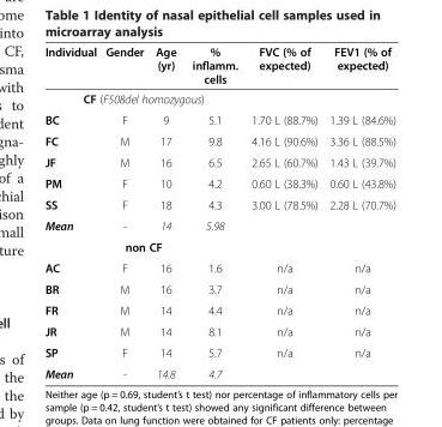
<table><thead><tr><td>Individual</td><td>Gender</td><td>Age (yr)</td><td>% inflamm. cells</td><td>FVC (% of expected)</td><td>FEV1 (% of expected)</td></tr></thead><tbody><tr><td colspan="6">CF (F508del homozygous)</td></tr><tr><td>BC</td><td>F</td><td>9</td><td>5.1</td><td>1.70 L (88.7%)</td><td>1.39 L (84.6%)</td></tr><tr><td>FC</td><td>M</td><td>17</td><td>9.8</td><td>4.16 L (90.6%)</td><td>3.36 L (88.5%)</td></tr><tr><td>JF</td><td>M</td><td>16</td><td>6.5</td><td>2.65 L (60.7%)</td><td>1.43 L (39.7%)</td></tr><tr><td>PM</td><td>F</td><td>10</td><td>4.2</td><td>0.60 L (38.3%)</td><td>0.60 L (43.8%)</td></tr><tr><td>SS</td><td>F</td><td>18</td><td>4.3</td><td>3.00 L (78.5%)</td><td>2.28 L (70.7%)</td></tr><tr><td>Mean</td><td>-</td><td>14</td><td>5.98</td><td></td><td></td></tr><tr><td colspan="6">non CF</td></tr><tr><td>AC</td><td>F</td><td>16</td><td>1.6</td><td>n/a</td><td>n/a</td></tr><tr><td>BR</td><td>M</td><td>16</td><td>3.7</td><td>n/a</td><td>n/a</td></tr><tr><td>FR</td><td>M</td><td>14</td><td>4.4</td><td>n/a</td><td>n/a</td></tr><tr><td>JR</td><td>M</td><td>14</td><td>8.1</td><td>n/a</td><td>n/a</td></tr><tr><td>SP</td><td>F</td><td>14</td><td>5.7</td><td>n/a</td><td>n/a</td></tr><tr><td>Mean</td><td>-</td><td>14.8</td><td>4.7</td><td></td><td></td></tr></tbody></table>